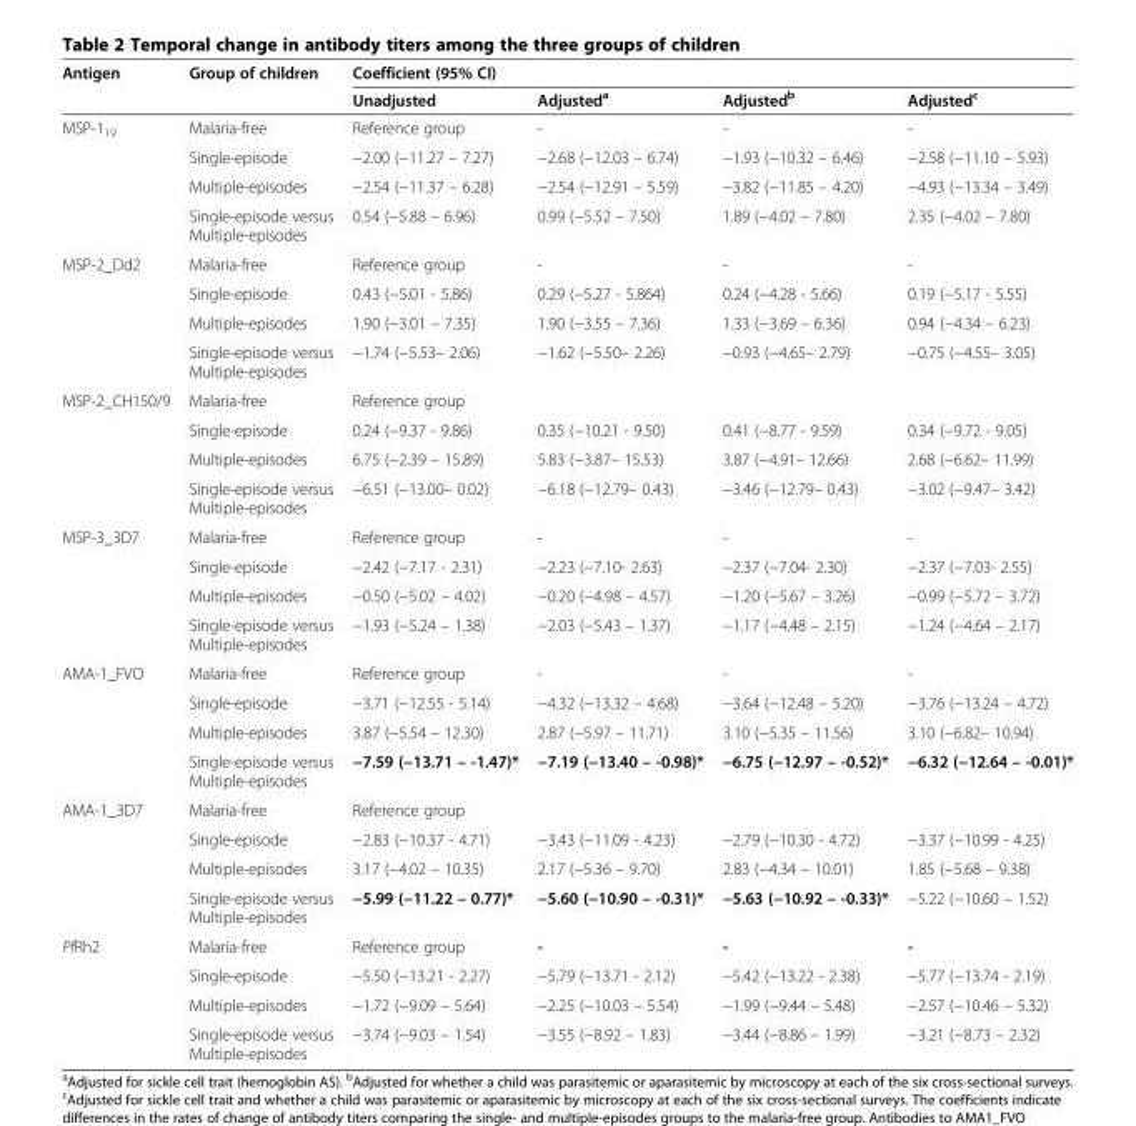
<table><thead><tr><td rowspan="2">Antigen</td><td rowspan="2">Group of children</td><td colspan="4">Coefficient (95% CI)</td></tr><tr><td>Unadjusted</td><td>Adjusted<sup>a</sup></td><td>Adjusted<sup>b</sup></td><td>Adjusted<sup>c</sup></td></tr></thead><tbody><tr><td rowspan="4">MSP-1<sub>19</sub></td><td>Malaria-free</td><td>Reference group</td><td>-</td><td>-</td><td>-</td></tr><tr><td>Single-episode</td><td>−2.00 (−11.27 – 7.27)</td><td>−2.68 (−12.03 – 6.74)</td><td>−1.93 (−10.32 – 6.46)</td><td>−2.58 (−11.10 – 5.93)</td></tr><tr><td>Multiple-episodes</td><td>−2.54 (−11.37 – 6.28)</td><td>−2.54 (−12.91 – 5.59)</td><td>−3.82 (−11.85 – 4.20)</td><td>−4.93 (−13.34 – 3.49)</td></tr><tr><td>Single-episode versus Multiple-episodes</td><td>0.54 (−5.88 – 6.96)</td><td>0.99 (−5.52 – 7.50)</td><td>1.89 (−4.02 – 7.80)</td><td>2.35 (−4.02 – 7.80)</td></tr><tr><td rowspan="4">MSP-2_Dd2</td><td>Malaria-free</td><td>Reference group</td><td>-</td><td>-</td><td>-</td></tr><tr><td>Single-episode</td><td>0.43 (−5.01 - 5.86)</td><td>0.29 (−5.27 - 5.864)</td><td>0.24 (−4.28 - 5.66)</td><td>0.19 (−5.17 - 5.55)</td></tr><tr><td>Multiple-episodes</td><td>1.90 (−3.01 – 7.35)</td><td>1.90 (−3.55 – 7.36)</td><td>1.33 (−3.69 – 6.36)</td><td>0.94 (−4.34 – 6.23)</td></tr><tr><td>Single-episode versus Multiple-episodes</td><td>−1.74 (−5.53– 2.06)</td><td>−1.62 (−5.50– 2.26)</td><td>−0.93 (−4.65– 2.79)</td><td>−0.75 (−4.55– 3.05)</td></tr><tr><td rowspan="4">MSP-2_CH150/9</td><td>Malaria-free</td><td>Reference group</td><td></td><td></td><td></td></tr><tr><td>Single-episode</td><td>0.24 (−9.37 - 9.86)</td><td>0.35 (−10.21 - 9.50)</td><td>0.41 (−8.77 - 9.59)</td><td>0.34 (−9.72 - 9.05)</td></tr><tr><td>Multiple-episodes</td><td>6.75 (−2.39 – 15.89)</td><td>5.83 (−3.87– 15.53)</td><td>3.87 (−4.91– 12.66)</td><td>2.68 (−6.62– 11.99)</td></tr><tr><td>Single-episode versus Multiple-episodes</td><td>−6.51 (−13.00– 0.02)</td><td>−6.18 (−12.79– 0.43)</td><td>−3.46 (−12.79– 0.43)</td><td>−3.02 (−9.47– 3.42)</td></tr><tr><td rowspan="4">MSP-3_3D7</td><td>Malaria-free</td><td>Reference group</td><td>-</td><td>-</td><td>-</td></tr><tr><td>Single-episode</td><td>−2.42 (−7.17 - 2.31)</td><td>−2.23 (−7.10- 2.63)</td><td>−2.37 (−7.04- 2.30)</td><td>−2.37 (−7.03- 2.55)</td></tr><tr><td>Multiple-episodes</td><td>−0.50 (−5.02 – 4.02)</td><td>−0.20 (−4.98 – 4.57)</td><td>−1.20 (−5.67 – 3.26)</td><td>−0.99 (−5.72 – 3.72)</td></tr><tr><td>Single-episode versus Multiple-episodes</td><td>−1.93 (−5.24 – 1.38)</td><td>−2.03 (−5.43 – 1.37)</td><td>−1.17 (−4.48 – 2.15)</td><td>−1.24 (−4.64 – 2.17)</td></tr><tr><td rowspan="4">AMA-1_FVO</td><td>Malaria-free</td><td>Reference group</td><td>-</td><td>-</td><td>-</td></tr><tr><td>Single-episode</td><td>−3.71 (−12.55 - 5.14)</td><td>−4.32 (−13.32 – 4.68)</td><td>−3.64 (−12.48 – 5.20)</td><td>−3.76 (−13.24 – 4.72)</td></tr><tr><td>Multiple-episodes</td><td>3.87 (−5.54 – 12.30)</td><td>2.87 (−5.97 – 11.71)</td><td>3.10 (−5.35 – 11.56)</td><td>3.10 (−6.82– 10.94)</td></tr><tr><td>Single-episode versus Multiple-episodes</td><td>−7.59 (−13.71 – -1.47)*</td><td>−7.19 (−13.40 – -0.98)*</td><td>−6.75 (−12.97 – -0.52)*</td><td>−6.32 (−12.64 – -0.01)*</td></tr><tr><td rowspan="4">AMA-1_3D7</td><td>Malaria-free</td><td>Reference group</td><td></td><td></td><td></td></tr><tr><td>Single-episode</td><td>−2.83 (−10.37 - 4.71)</td><td>−3.43 (−11.09 - 4.23)</td><td>−2.79 (−10.30 - 4.72)</td><td>−3.37 (−10.99 - 4.25)</td></tr><tr><td>Multiple-episodes</td><td>3.17 (−4.02 – 10.35)</td><td>2.17 (−5.36 – 9.70)</td><td>2.83 (−4.34 – 10.01)</td><td>1.85 (−5.68 – 9.38)</td></tr><tr><td>Single-episode versus Multiple-episodes</td><td>−5.99 (−11.22 – 0.77)*</td><td>−5.60 (−10.90 – -0.31)*</td><td>−5.63 (−10.92 – -0.33)*</td><td>−5.22 (−10.60 – 1.52)</td></tr><tr><td rowspan="4">PfRh2</td><td>Malaria-free</td><td>Reference group</td><td>-</td><td>-</td><td>-</td></tr><tr><td>Single-episode</td><td>−5.50 (−13.21 - 2.27)</td><td>−5.79 (−13.71 - 2.12)</td><td>−5.42 (−13.22 - 2.38)</td><td>−5.77 (−13.74 - 2.19)</td></tr><tr><td>Multiple-episodes</td><td>−1.72 (−9.09 – 5.64)</td><td>−2.25 (−10.03 – 5.54)</td><td>−1.99 (−9.44 – 5.48)</td><td>−2.57 (−10.46 – 5.32)</td></tr><tr><td>Single-episode versus Multiple-episodes</td><td>−3.74 (−9.03 – 1.54)</td><td>−3.55 (−8.92 – 1.83)</td><td>−3.44 (−8.86 – 1.99)</td><td>−3.21 (−8.73 – 2.32)</td></tr></tbody></table>